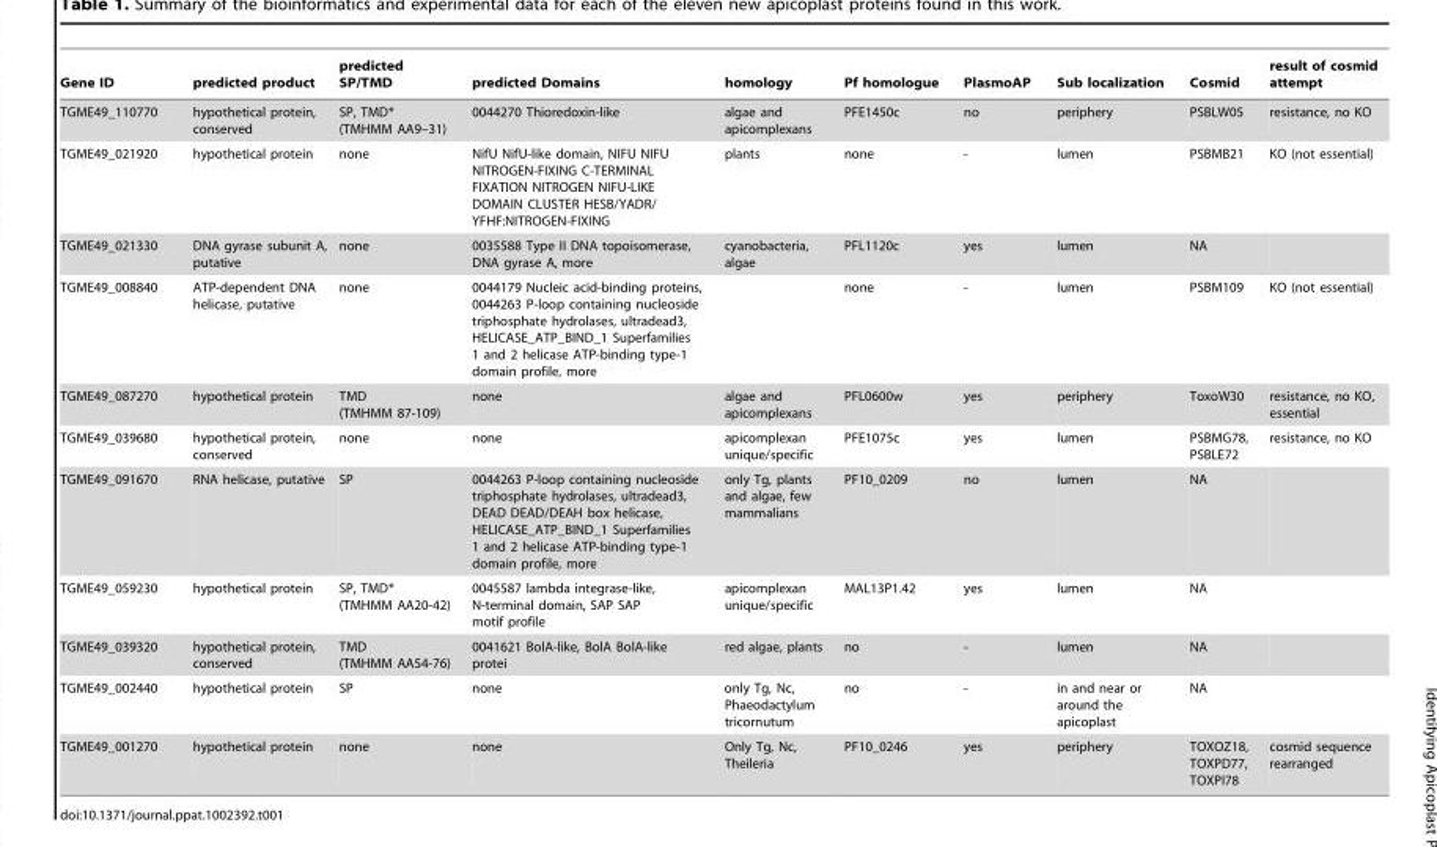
<table><thead><tr><td>Gene ID</td><td>predicted product</td><td>predicted SP/TMD</td><td>predicted Domains</td><td>homology</td><td>Pf homologue</td><td>PlasmoAP</td><td>Sub localization</td><td>Cosmid</td><td>result of cosmid attempt</td></tr></thead><tbody><tr><td>TGME49_110770</td><td>hypothetical protein, conserved</td><td>SP, TMD* (TMHMM AA9–31)</td><td>0044270 Thioredoxin-like</td><td>algae and apicomplexans</td><td>PFE1450c</td><td>no</td><td>periphery</td><td>PSBLW05</td><td>resistance, no KO</td></tr><tr><td>TGME49_021920</td><td>hypothetical protein</td><td>none</td><td>NifU NifU-like domain, NIFU NIFU NITROGEN-FIXING C-TERMINAL FIXATION NITROGEN NIFU-LIKE DOMAIN CLUSTER HESB/YADR/ YFHF:NITROGEN-FIXING</td><td>plants</td><td>none</td><td>-</td><td>lumen</td><td>PSBMB21</td><td>KO (not essential)</td></tr><tr><td>TGME49_021330</td><td>DNA gyrase subunit A, putative</td><td>none</td><td>0035588 Type II DNA topoisomerase, DNA gyrase A, more</td><td>cyanobacteria, algae</td><td>PFL1120c</td><td>yes</td><td>lumen</td><td>NA</td><td></td></tr><tr><td>TGME49_008840</td><td>ATP-dependent DNA helicase, putative</td><td>none</td><td>0044179 Nucleic acid-binding proteins, 0044263 P-loop containing nucleoside triphosphate hydrolases, ultradead3, HELICASE_ATP_BIND_1 Superfamilies 1 and 2 helicase ATP-binding type-1 domain profile, more</td><td></td><td>none</td><td>-</td><td>lumen</td><td>PSBM109</td><td>KO (not essential)</td></tr><tr><td>TGME49_087270</td><td>hypothetical protein</td><td>TMD (TMHMM 87-109)</td><td>none</td><td>algae and apicomplexans</td><td>PFL0600w</td><td>yes</td><td>periphery</td><td>ToxoW30</td><td>resistance, no KO, essential</td></tr><tr><td>TGME49_039680</td><td>hypothetical protein, conserved</td><td>none</td><td>none</td><td>apicomplexan unique/specific</td><td>PFE1075c</td><td>yes</td><td>lumen</td><td>PSBMG78, PSBLE72</td><td>resistance, no KO</td></tr><tr><td>TGME49_091670</td><td>RNA helicase, putative</td><td>SP</td><td>0044263 P-loop containing nucleoside triphosphate hydrolases, ultradead3, DEAD DEAD/DEAH box helicase, HELICASE_ATP_BIND_1 Superfamilies 1 and 2 helicase ATP-binding type-1 domain profile, more</td><td>only Tg, plants and algae, few mammalians</td><td>PF10_0209</td><td>no</td><td>lumen</td><td>NA</td><td></td></tr><tr><td>TGME49_059230</td><td>hypothetical protein</td><td>SP, TMD* (TMHMM AA20-42)</td><td>0045587 lambda integrase-like, N-terminal domain, SAP SAP motif profile</td><td>apicomplexan unique/specific</td><td>MAL13P1.42</td><td>yes</td><td>lumen</td><td>NA</td><td></td></tr><tr><td>TGME49_039320</td><td>hypothetical protein, conserved</td><td>TMD (TMHMM AA54-76)</td><td>0041621 BolA-like, BolA BolA-like protei</td><td>red algae, plants</td><td>no</td><td>-</td><td>lumen</td><td>NA</td><td></td></tr><tr><td>TGME49_002440</td><td>hypothetical protein</td><td>SP</td><td>none</td><td>only Tg, Nc, Phaeodactylum tricornutum</td><td>no</td><td>-</td><td>in and near or around the apicoplast</td><td>NA</td><td></td></tr><tr><td>TGME49_001270</td><td>hypothetical protein</td><td>none</td><td>none</td><td>Only Tg, Nc, Theileria</td><td>PF10_0246</td><td>yes</td><td>periphery</td><td>TOXOZ18, TOXPD77, TOXPI78</td><td>cosmid sequence rearranged</td></tr></tbody></table>